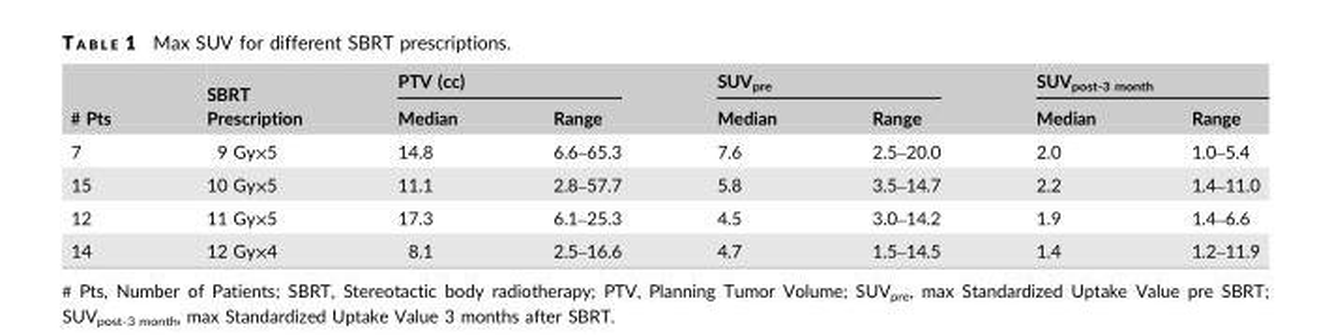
<table><thead><tr><td rowspan="2"># Pts</td><td rowspan="2">SBRT Prescription</td><td colspan="2">PTV (cc)</td><td colspan="2">SUV<sub>pre</sub></td><td colspan="2">SUV<sub>post-3 month</sub></td></tr><tr><td>Median</td><td>Range</td><td>Median</td><td>Range</td><td>Median</td><td>Range</td></tr></thead><tbody><tr><td>7</td><td>9 Gy×5</td><td>14.8</td><td>6.6–65.3</td><td>7.6</td><td>2.5–20.0</td><td>2.0</td><td>1.0–5.4</td></tr><tr><td>15</td><td>10 Gy×5</td><td>11.1</td><td>2.8–57.7</td><td>5.8</td><td>3.5–14.7</td><td>2.2</td><td>1.4–11.0</td></tr><tr><td>12</td><td>11 Gy×5</td><td>17.3</td><td>6.1–25.3</td><td>4.5</td><td>3.0–14.2</td><td>1.9</td><td>1.4–6.6</td></tr><tr><td>14</td><td>12 Gy×4</td><td>8.1</td><td>2.5–16.6</td><td>4.7</td><td>1.5–14.5</td><td>1.4</td><td>1.2–11.9</td></tr></tbody></table>